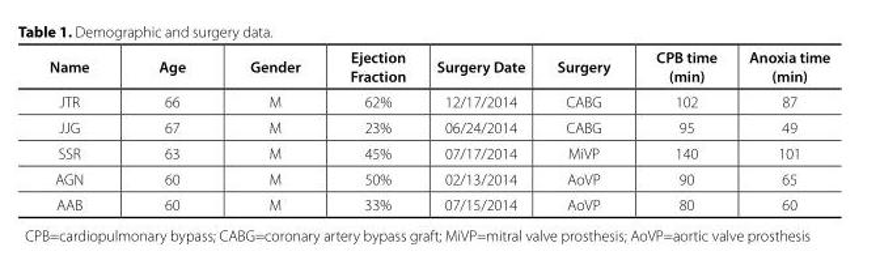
<table><thead><tr><td>Name</td><td>Age</td><td>Gender</td><td>Ejection Fraction</td><td>Surgery Date</td><td>Surgery</td><td>CPB time (min)</td><td>Anoxia time (min)</td></tr></thead><tbody><tr><td>JTR</td><td>66</td><td>M</td><td>62%</td><td>12/17/2014</td><td>CABG</td><td>102</td><td>87</td></tr><tr><td>JJG</td><td>67</td><td>M</td><td>23%</td><td>06/24/2014</td><td>CABG</td><td>95</td><td>49</td></tr><tr><td>SSR</td><td>63</td><td>M</td><td>45%</td><td>07/17/2014</td><td>MiVP</td><td>140</td><td>101</td></tr><tr><td>AGN</td><td>60</td><td>M</td><td>50%</td><td>02/13/2014</td><td>AoVP</td><td>90</td><td>65</td></tr><tr><td>AAB</td><td>60</td><td>M</td><td>33%</td><td>07/15/2014</td><td>AoVP</td><td>80</td><td>60</td></tr></tbody></table>